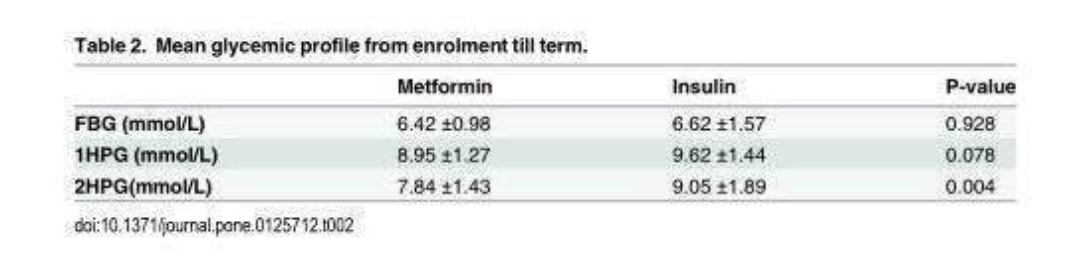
<table><thead><tr><td></td><td>Metformin</td><td>Insulin</td><td>P-value</td></tr></thead><tbody><tr><td>FBG (mmol/L)</td><td>6.42 ±0.98</td><td>6.62 ±1.57</td><td>0.928</td></tr><tr><td>1HPG (mmol/L)</td><td>8.95 ±1.27</td><td>9.62 ±1.44</td><td>0.078</td></tr><tr><td>2HPG(mmol/L)</td><td>7.84 ±1.43</td><td>9.05 ±1.89</td><td>0.004</td></tr></tbody></table>